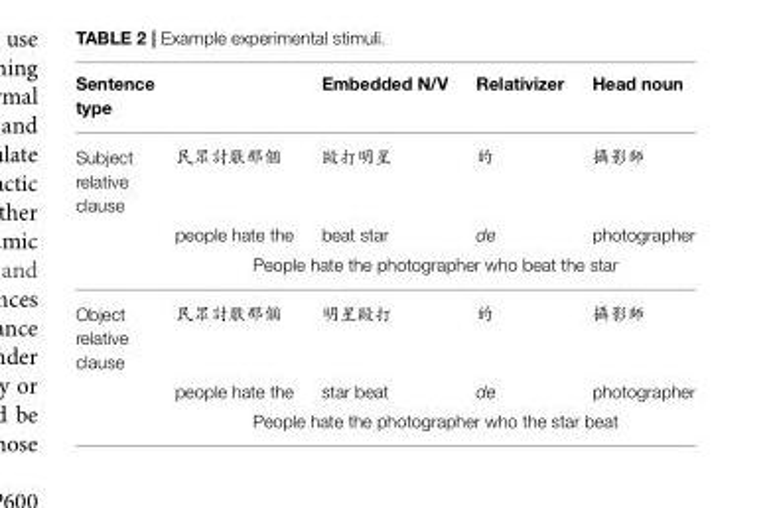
<table><thead><tr><td>Sentence type</td><td></td><td>Embedded N/V</td><td>Relativizer</td><td>Head noun</td></tr></thead><tbody><tr><td rowspan="3">Subject relative clause</td><td>民眾討厭那個</td><td>毆打明星</td><td>的</td><td>攝影師</td></tr><tr><td>people hate the</td><td>beat star</td><td>de</td><td>photographer</td></tr><tr><td colspan="4">People hate the photographer who beat the star</td></tr><tr><td rowspan="3">Object relative clause</td><td>民眾討厭那個</td><td>明星毆打</td><td>的</td><td>攝影師</td></tr><tr><td>people hate the</td><td>star beat</td><td>de</td><td>photographer</td></tr><tr><td colspan="4">People hate the photographer who the star beat</td></tr></tbody></table>